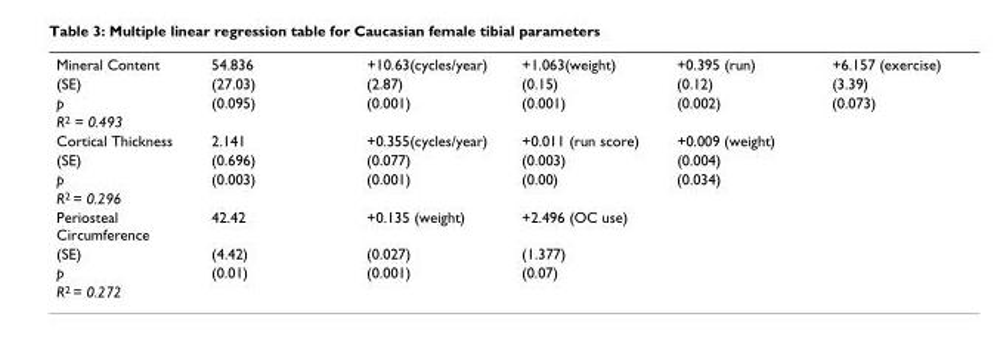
<table><tbody><tr><td>Mineral Content</td><td>54.836</td><td>+10.63(cycles/year)</td><td>+1.063(weight)</td><td>+0.395 (run)</td><td>+6.157 (exercise)</td></tr><tr><td>(SE)</td><td>(27.03)</td><td>(2.87)</td><td>(0.15)</td><td>(0.12)</td><td>(3.39)</td></tr><tr><td>p</td><td>(0.095)</td><td>(0.001)</td><td>(0.001)</td><td>(0.002)</td><td>(0.073)</td></tr><tr><td colspan="6">R<sup>2</sup> = 0.493</td></tr><tr><td>Cortical Thickness</td><td>2.141</td><td>+0.355(cycles/year)</td><td>+0.011 (run score)</td><td>+0.009 (weight)</td><td></td></tr><tr><td>(SE)</td><td>(0.696)</td><td>(0.077)</td><td>(0.003)</td><td>(0.004)</td><td></td></tr><tr><td>p</td><td>(0.003)</td><td>(0.001)</td><td>(0.00)</td><td>(0.034)</td><td></td></tr><tr><td colspan="6">R<sup>2</sup> = 0.296</td></tr><tr><td>Periosteal Circumference</td><td>42.42</td><td>+0.135 (weight)</td><td>+2.496 (OC use)</td><td></td><td></td></tr><tr><td>(SE)</td><td>(4.42)</td><td>(0.027)</td><td>(1.377)</td><td></td><td></td></tr><tr><td>p</td><td>(0.01)</td><td>(0.001)</td><td>(0.07)</td><td></td><td></td></tr><tr><td>R<sup>2</sup> = 0.272</td><td></td><td></td><td></td><td></td><td></td></tr></tbody></table>